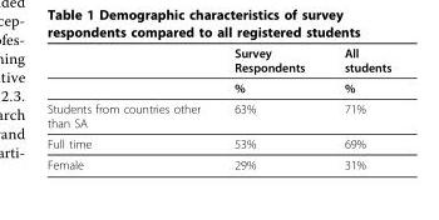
<table><thead><tr><td></td><td>Survey Respondents</td><td>All students</td></tr></thead><tbody><tr><td></td><td>%</td><td>%</td></tr><tr><td>Students from countries other than SA</td><td>63%</td><td>71%</td></tr><tr><td>Full time</td><td>53%</td><td>69%</td></tr><tr><td>Female</td><td>29%</td><td>31%</td></tr></tbody></table>